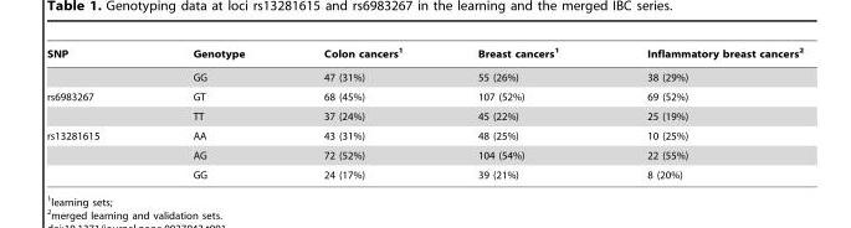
<table><thead><tr><td>SNP</td><td>Genotype</td><td>Colon cancers<sup>1</sup></td><td>Breast cancers<sup>1</sup></td><td>Inflammatory breast cancers<sup>2</sup></td></tr></thead><tbody><tr><td></td><td>GG</td><td>47 (31%)</td><td>55 (26%)</td><td>38 (29%)</td></tr><tr><td rowspan="2">rs6983267</td><td>GT</td><td>68 (45%)</td><td>107 (52%)</td><td>69 (52%)</td></tr><tr><td>TT</td><td>37 (24%)</td><td>45 (22%)</td><td>25 (19%)</td></tr><tr><td rowspan="3">rs13281615</td><td>AA</td><td>43 (31%)</td><td>48 (25%)</td><td>10 (25%)</td></tr><tr><td>AG</td><td>72 (52%)</td><td>104 (54%)</td><td>22 (55%)</td></tr><tr><td>GG</td><td>24 (17%)</td><td>39 (21%)</td><td>8 (20%)</td></tr></tbody></table>